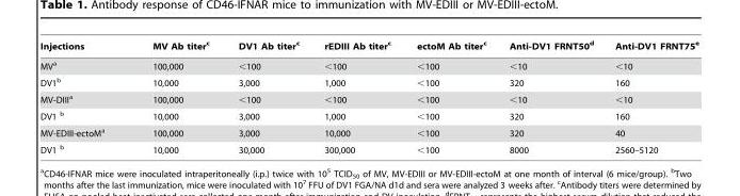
<table><thead><tr><td>Injections</td><td>MV Ab titer<sup>c</sup></td><td>DV1 Ab titer<sup>c</sup></td><td>rEDIII Ab titer<sup>c</sup></td><td>ectoM Ab titer<sup>c</sup></td><td>Anti-DV1 FRNT50<sup>d</sup></td><td>Anti-DV1 FRNT75<sup>e</sup></td></tr></thead><tbody><tr><td>MV<sup>a</sup></td><td>100,000</td><td>&lt;100</td><td>&lt;100</td><td>&lt;100</td><td>&lt;10</td><td>&lt;10</td></tr><tr><td>DV1<sup>b</sup></td><td>10,000</td><td>3,000</td><td>1,000</td><td>&lt;100</td><td>320</td><td>160</td></tr><tr><td>MV-DIII<sup>a</sup></td><td>100,000</td><td>&lt;100</td><td>&lt;100</td><td>&lt;100</td><td>&lt;10</td><td>&lt;10</td></tr><tr><td>DV1 b</td><td>10,000</td><td>3,000</td><td>1,000</td><td>&lt;100</td><td>320</td><td>160</td></tr><tr><td>MV-EDIII-ectoM<sup>a</sup></td><td>100,000</td><td>3,000</td><td>10,000</td><td>&lt;100</td><td>320</td><td>40</td></tr><tr><td>DV1 b</td><td>10,000</td><td>30,000</td><td>300,000</td><td>&lt;100</td><td>8000</td><td>2560–5120</td></tr></tbody></table>